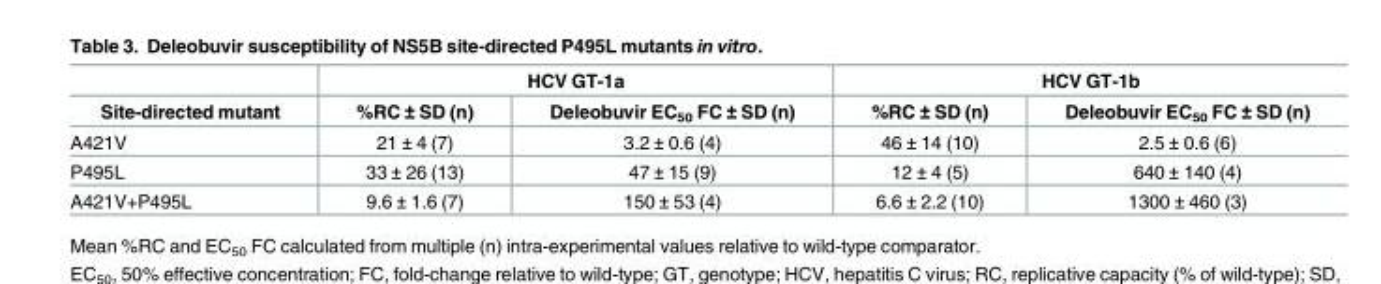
<table><thead><tr><td rowspan="2">Site-directed mutant</td><td colspan="2">HCV GT-1a</td><td colspan="2">HCV GT-1b</td></tr><tr><td>%RC ± SD (n)</td><td>Deleobuvir EC<sub>50</sub> FC ± SD (n)</td><td>%RC ± SD (n)</td><td>Deleobuvir EC<sub>50</sub> FC ± SD (n)</td></tr></thead><tbody><tr><td>A421V</td><td>21 ± 4 (7)</td><td>3.2 ± 0.6 (4)</td><td>46 ± 14 (10)</td><td>2.5 ± 0.6 (6)</td></tr><tr><td>P495L</td><td>33 ± 26 (13)</td><td>47 ± 15 (9)</td><td>12 ± 4 (5)</td><td>640 ± 140 (4)</td></tr><tr><td>A421V+P495L</td><td>9.6 ± 1.6 (7)</td><td>150 ± 53 (4)</td><td>6.6 ± 2.2 (10)</td><td>1300 ± 460 (3)</td></tr></tbody></table>